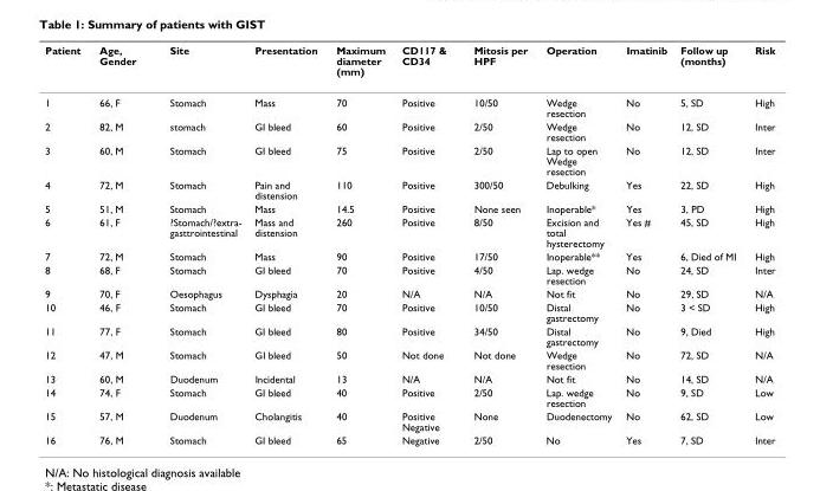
<table><thead><tr><td>Patient</td><td>Age, Gender</td><td>Site</td><td>Presentation</td><td>Maximum diameter (mm)</td><td>CD117 &amp; CD34</td><td>Mitosis per HPF</td><td>Operation</td><td>Imatinib</td><td>Follow up (months)</td><td>Risk</td></tr></thead><tbody><tr><td>1</td><td>66, F</td><td>Stomach</td><td>Mass</td><td>70</td><td>Positive</td><td>10/50</td><td>Wedge resection</td><td>No</td><td>5, SD</td><td>High</td></tr><tr><td>2</td><td>82, M</td><td>stomach</td><td>GI bleed</td><td>60</td><td>Positive</td><td>2/50</td><td>Wedge resection</td><td>No</td><td>12, SD</td><td>Inter</td></tr><tr><td>3</td><td>60, M</td><td>Stomach</td><td>GI bleed</td><td>75</td><td>Positive</td><td>2/50</td><td>Lap to open Wedge resection</td><td>No</td><td>12, SD</td><td>Inter</td></tr><tr><td>4</td><td>72, M</td><td>Stomach</td><td>Pain and distension</td><td>110</td><td>Positive</td><td>300/50</td><td>Debulking</td><td>Yes</td><td>22, SD</td><td>High</td></tr><tr><td>5</td><td>51, M</td><td>Stomach</td><td>Mass</td><td>14.5</td><td>Positive</td><td>None seen</td><td>Inoperable*</td><td>Yes</td><td>3, PD</td><td>High</td></tr><tr><td>6</td><td>61, F</td><td>?Stomach/?extra- gasttrointestinal</td><td>Mass and distension</td><td>260</td><td>Positive</td><td>8/50</td><td>Excision and total hysterectomy</td><td>Yes #</td><td>45, SD</td><td>High</td></tr><tr><td>7</td><td>72, M</td><td>Stomach</td><td>Mass</td><td>90</td><td>Positive</td><td>17/50</td><td>Inoperable**</td><td>Yes</td><td>6, Died of MI</td><td>High</td></tr><tr><td>8</td><td>68, F</td><td>Stomach</td><td>GI bleed</td><td>70</td><td>Positive</td><td>4/50</td><td>Lap. wedge resection</td><td>No</td><td>24, SD</td><td>Inter</td></tr><tr><td>9</td><td>70, F</td><td>Oesophagus</td><td>Dysphagia</td><td>20</td><td>N/A</td><td>N/A</td><td>Not fit</td><td>No</td><td>29, SD</td><td>N/A</td></tr><tr><td>10</td><td>46, F</td><td>Stomach</td><td>GI bleed</td><td>70</td><td>Positive</td><td>10/50</td><td>Distal gastrectomy</td><td>No</td><td>3 &lt; SD</td><td>High</td></tr><tr><td>11</td><td>77, F</td><td>Stomach</td><td>GI bleed</td><td>80</td><td>Positive</td><td>34/50</td><td>Distal gastrectomy</td><td>No</td><td>9, Died</td><td>High</td></tr><tr><td>12</td><td>47, M</td><td>Stomach</td><td>GI bleed</td><td>50</td><td>Not done</td><td>Not done</td><td>Wedge resection</td><td>No</td><td>72, SD</td><td>N/A</td></tr><tr><td>13</td><td>60, M</td><td>Duodenum</td><td>Incidental</td><td>13</td><td>N/A</td><td>N/A</td><td>Not fit</td><td>No</td><td>14, SD</td><td>N/A</td></tr><tr><td>14</td><td>74, F</td><td>Stomach</td><td>GI bleed</td><td>40</td><td>Positive</td><td>2/50</td><td>Lap. wedge resection</td><td>No</td><td>9, SD</td><td>Low</td></tr><tr><td>15</td><td>57, M</td><td>Duodenum</td><td>Cholangitis</td><td>40</td><td>Positive Negative</td><td>None</td><td>Duodenectomy</td><td>No</td><td>62, SD</td><td>Low</td></tr><tr><td>16</td><td>76, M</td><td>Stomach</td><td>GI bleed</td><td>65</td><td>Negative</td><td>2/50</td><td>No</td><td>Yes</td><td>7, SD</td><td>Inter</td></tr></tbody></table>